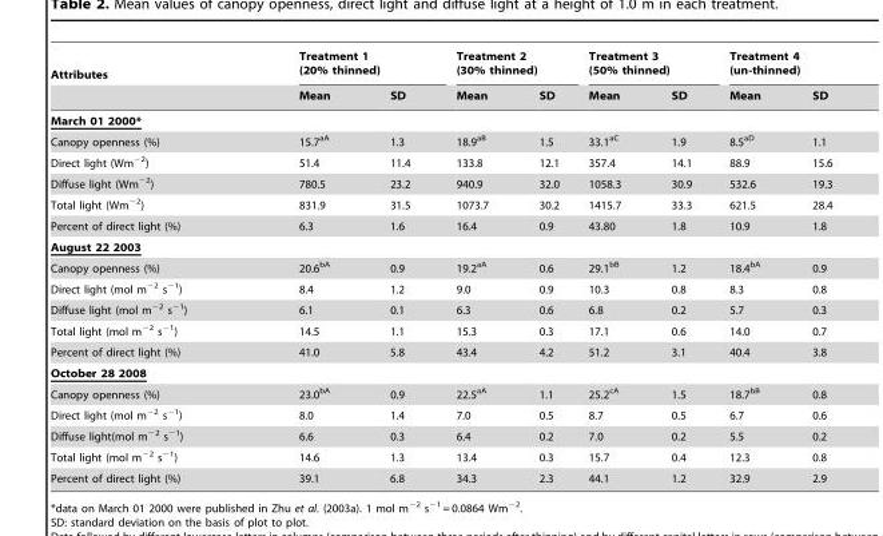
<table><thead><tr><td rowspan="2">Attributes</td><td colspan="2">Treatment 1 (20% thinned)</td><td colspan="2">Treatment 2 (30% thinned)</td><td colspan="2">Treatment 3 (50% thinned)</td><td colspan="2">Treatment 4 (un-thinned)</td></tr><tr><td>Mean</td><td>SD</td><td>Mean</td><td>SD</td><td>Mean</td><td>SD</td><td>Mean</td><td>SD</td></tr></thead><tbody><tr><td colspan="9">March 01 2000*</td></tr><tr><td>Canopy openness (%)</td><td>15.7<sup>aA</sup></td><td>1.3</td><td>18.9<sup>aB</sup></td><td>1.5</td><td>33.1<sup>aC</sup></td><td>1.9</td><td>8.5<sup>aD</sup></td><td>1.1</td></tr><tr><td>Direct light (Wm<sup>−2</sup>)</td><td>51.4</td><td>11.4</td><td>133.8</td><td>12.1</td><td>357.4</td><td>14.1</td><td>88.9</td><td>15.6</td></tr><tr><td>Diffuse light (Wm<sup>−2</sup>)</td><td>780.5</td><td>23.2</td><td>940.9</td><td>32.0</td><td>1058.3</td><td>30.9</td><td>532.6</td><td>19.3</td></tr><tr><td>Total light (Wm<sup>−2</sup>)</td><td>831.9</td><td>31.5</td><td>1073.7</td><td>30.2</td><td>1415.7</td><td>33.3</td><td>621.5</td><td>28.4</td></tr><tr><td>Percent of direct light (%)</td><td>6.3</td><td>1.6</td><td>16.4</td><td>0.9</td><td>43.80</td><td>1.8</td><td>10.9</td><td>1.8</td></tr><tr><td colspan="9">August 22 2003</td></tr><tr><td>Canopy openness (%)</td><td>20.6<sup>bA</sup></td><td>0.9</td><td>19.2<sup>aA</sup></td><td>0.6</td><td>29.1<sup>bB</sup></td><td>1.2</td><td>18.4<sup>bA</sup></td><td>0.9</td></tr><tr><td>Direct light (mol m<sup>−2</sup> s<sup>−1</sup>)</td><td>8.4</td><td>1.2</td><td>9.0</td><td>0.9</td><td>10.3</td><td>0.8</td><td>8.3</td><td>0.8</td></tr><tr><td>Diffuse light (mol m<sup>−2</sup> s<sup>−1</sup>)</td><td>6.1</td><td>0.1</td><td>6.3</td><td>0.6</td><td>6.8</td><td>0.2</td><td>5.7</td><td>0.3</td></tr><tr><td>Total light (mol m<sup>−2</sup> s<sup>−1</sup>)</td><td>14.5</td><td>1.1</td><td>15.3</td><td>0.3</td><td>17.1</td><td>0.6</td><td>14.0</td><td>0.7</td></tr><tr><td>Percent of direct light (%)</td><td>41.0</td><td>5.8</td><td>43.4</td><td>4.2</td><td>51.2</td><td>3.1</td><td>40.4</td><td>3.8</td></tr><tr><td colspan="9">October 28 2008</td></tr><tr><td>Canopy openness (%)</td><td>23.0<sup>bA</sup></td><td>0.9</td><td>22.5<sup>aA</sup></td><td>1.1</td><td>25.2<sup>cA</sup></td><td>1.5</td><td>18.7<sup>bB</sup></td><td>0.8</td></tr><tr><td>Direct light (mol m<sup>−2</sup> s<sup>−1</sup>)</td><td>8.0</td><td>1.4</td><td>7.0</td><td>0.5</td><td>8.7</td><td>0.5</td><td>6.7</td><td>0.6</td></tr><tr><td>Diffuse light(mol m<sup>−2</sup> s<sup>−1</sup>)</td><td>6.6</td><td>0.3</td><td>6.4</td><td>0.2</td><td>7.0</td><td>0.2</td><td>5.5</td><td>0.2</td></tr><tr><td>Total light (mol m<sup>−2</sup> s<sup>−1</sup>)</td><td>14.6</td><td>1.3</td><td>13.4</td><td>0.3</td><td>15.7</td><td>0.4</td><td>12.3</td><td>0.8</td></tr><tr><td>Percent of direct light (%)</td><td>39.1</td><td>6.8</td><td>34.3</td><td>2.3</td><td>44.1</td><td>1.2</td><td>32.9</td><td>2.9</td></tr></tbody></table>